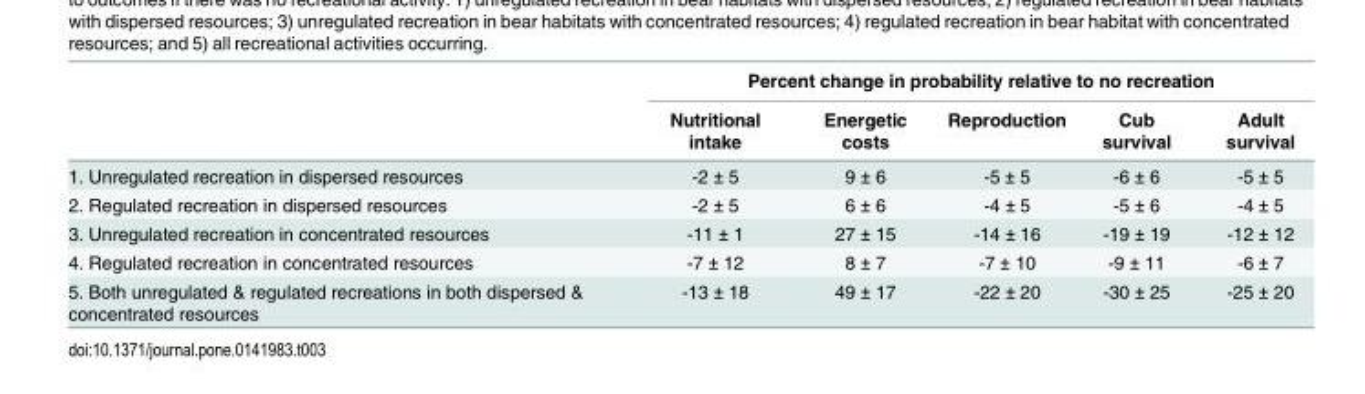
<table><thead><tr><td rowspan="2"></td><td colspan="5">Percent change in probability relative to no recreation</td></tr><tr><td>Nutritional intake</td><td>Energetic costs</td><td>Reproduction</td><td>Cub survival</td><td>Adult survival</td></tr></thead><tbody><tr><td>1. Unregulated recreation in dispersed resources</td><td>-2 ± 5</td><td>9 ± 6</td><td>-5 ± 5</td><td>-6 ± 6</td><td>-5 ± 5</td></tr><tr><td>2. Regulated recreation in dispersed resources</td><td>-2 ± 5</td><td>6 ± 6</td><td>-4 ± 5</td><td>-5 ± 6</td><td>-4 ± 5</td></tr><tr><td>3. Unregulated recreation in concentrated resources</td><td>-11 ± 1</td><td>27 ± 15</td><td>-14 ± 16</td><td>-19 ± 19</td><td>-12 ± 12</td></tr><tr><td>4. Regulated recreation in concentrated resources</td><td>-7 ± 12</td><td>8 ± 7</td><td>-7 ± 10</td><td>-9 ± 11</td><td>-6 ± 7</td></tr><tr><td>5. Both unregulated &amp; regulated recreations in both dispersed &amp; concentrated resources</td><td>-13 ± 18</td><td>49 ± 17</td><td>-22 ± 20</td><td>-30 ± 25</td><td>-25 ± 20</td></tr></tbody></table>